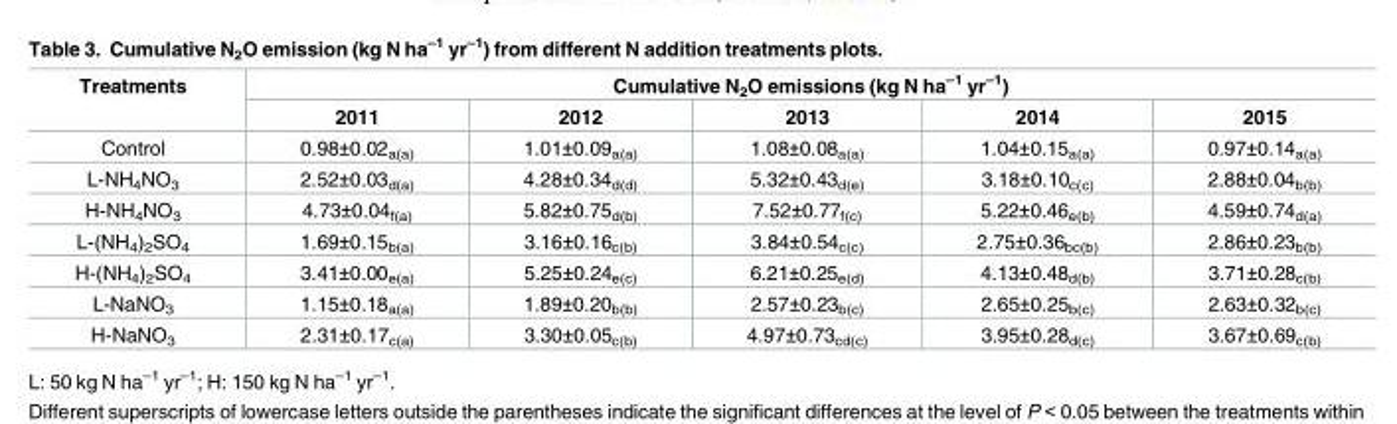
<table><thead><tr><td rowspan="2">Treatments</td><td colspan="5">Cumulative N<sub>2</sub>O emissions (kg N ha<sup>–1</sup> yr<sup>–1</sup>)</td></tr><tr><td>2011</td><td>2012</td><td>2013</td><td>2014</td><td>2015</td></tr></thead><tbody><tr><td>Control</td><td>0.98±0.02<sub>a(a)</sub></td><td>1.01±0.09<sub>a(a)</sub></td><td>1.08±0.08<sub>a(a)</sub></td><td>1.04±0.15<sub>a(a)</sub></td><td>0.97±0.14<sub>a(a)</sub></td></tr><tr><td>L-NH<sub>4</sub>NO<sub>3</sub></td><td>2.52±0.03<sub>d(a)</sub></td><td>4.28±0.34<sub>d(d)</sub></td><td>5.32±0.43<sub>d(e)</sub></td><td>3.18±0.10<sub>c(c)</sub></td><td>2.88±0.04<sub>b(b)</sub></td></tr><tr><td>H-NH<sub>4</sub>NO<sub>3</sub></td><td>4.73±0.04<sub>f(a)</sub></td><td>5.82±0.75<sub>d(b)</sub></td><td>7.52±0.77<sub>f(c)</sub></td><td>5.22±0.46<sub>e(b)</sub></td><td>4.59±0.74<sub>d(a)</sub></td></tr><tr><td>L-(NH<sub>4</sub>)<sub>2</sub>SO<sub>4</sub></td><td>1.69±0.15<sub>b(a)</sub></td><td>3.16±0.16<sub>c(b)</sub></td><td>3.84±0.54<sub>c(c)</sub></td><td>2.75±0.36<sub>bc(b)</sub></td><td>2.86±0.23<sub>b(b)</sub></td></tr><tr><td>H-(NH<sub>4</sub>)<sub>2</sub>SO<sub>4</sub></td><td>3.41±0.00<sub>e(a)</sub></td><td>5.25±0.24<sub>e(c)</sub></td><td>6.21±0.25<sub>e(d)</sub></td><td>4.13±0.48<sub>d(b)</sub></td><td>3.71±0.28<sub>c(b)</sub></td></tr><tr><td>L-NaNO<sub>3</sub></td><td>1.15±0.18<sub>a(a)</sub></td><td>1.89±0.20<sub>b(b)</sub></td><td>2.57±0.23<sub>b(c)</sub></td><td>2.65±0.25<sub>b(c)</sub></td><td>2.63±0.32<sub>b(c)</sub></td></tr><tr><td>H-NaNO<sub>3</sub></td><td>2.31±0.17<sub>c(a)</sub></td><td>3.30±0.05<sub>c(b)</sub></td><td>4.97±0.73<sub>cd(c)</sub></td><td>3.95±0.28<sub>d(c)</sub></td><td>3.67±0.69<sub>c(b)</sub></td></tr></tbody></table>